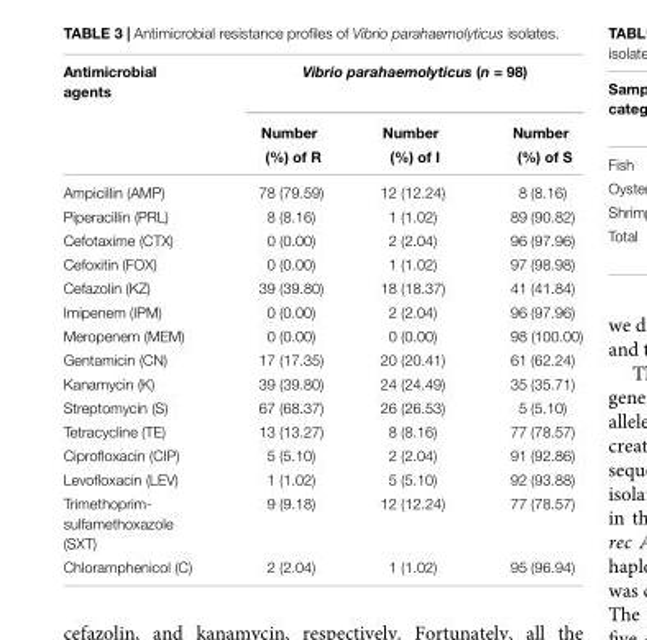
<table><thead><tr><td rowspan="3">Antimicrobial agents</td><td colspan="3">Vibrio parahaemolyticus (n = 98)</td></tr><tr><td rowspan="2">Number (%) of R</td><td rowspan="2">Number (%) of I</td><td rowspan="2">Number (%) of S</td></tr><tr></tr></thead><tbody><tr><td>Ampicillin (AMP)</td><td>78 (79.59)</td><td>12 (12.24)</td><td>8 (8.16)</td></tr><tr><td>Piperacillin (PRL)</td><td>8 (8.16)</td><td>1 (1.02)</td><td>89 (90.82)</td></tr><tr><td>Cefotaxime (CTX)</td><td>0 (0.00)</td><td>2 (2.04)</td><td>96 (97.96)</td></tr><tr><td>Cefoxitin (FOX)</td><td>0 (0.00)</td><td>1 (1.02)</td><td>97 (98.98)</td></tr><tr><td>Cefazolin (KZ)</td><td>39 (39.80)</td><td>18 (18.37)</td><td>41 (41.84)</td></tr><tr><td>Imipenem (IPM)</td><td>0 (0.00)</td><td>2 (2.04)</td><td>96 (97.96)</td></tr><tr><td>Meropenem (MEM)</td><td>0 (0.00)</td><td>0 (0.00)</td><td>98 (100.00)</td></tr><tr><td>Gentamicin (CN)</td><td>17 (17.35)</td><td>20 (20.41)</td><td>61 (62.24)</td></tr><tr><td>Kanamycin (K)</td><td>39 (39.80)</td><td>24 (24.49)</td><td>35 (35.71)</td></tr><tr><td>Streptomycin (S)</td><td>67 (68.37)</td><td>26 (26.53)</td><td>5 (5.10)</td></tr><tr><td>Tetracycline (TE)</td><td>13 (13.27)</td><td>8 (8.16)</td><td>77 (78.57)</td></tr><tr><td>Ciprofloxacin (CIP)</td><td>5 (5.10)</td><td>2 (2.04)</td><td>91 (92.86)</td></tr><tr><td>Levofloxacin (LEV)</td><td>1 (1.02)</td><td>5 (5.10)</td><td>92 (93.88)</td></tr><tr><td>Trimethoprim- sulfamethoxazole (SXT)</td><td>9 (9.18)</td><td>12 (12.24)</td><td>77 (78.57)</td></tr><tr><td>Chloramphenicol (C)</td><td>2 (2.04)</td><td>1 (1.02)</td><td>95 (96.94)</td></tr></tbody></table>